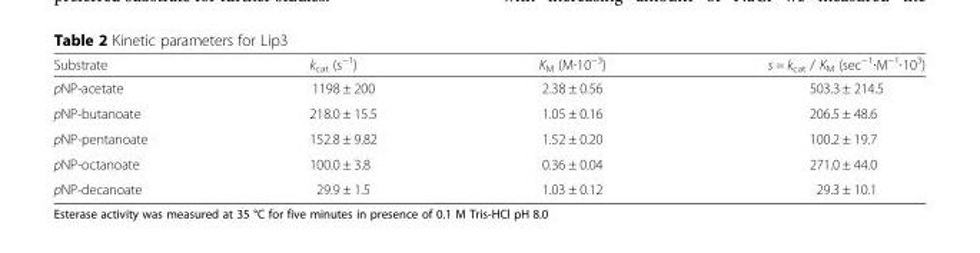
<table><thead><tr><td>Substrate</td><td>k<sub>cat</sub> (s<sup>−1</sup>)</td><td>K<sub>M</sub> (M∙10<sup>−3</sup>)</td><td>s = k<sub>cat</sub> / K<sub>M</sub> (sec<sup>−1</sup>∙M<sup>−1</sup>∙10<sup>3</sup>)</td></tr></thead><tbody><tr><td>pNP-acetate</td><td>1198 ± 200</td><td>2.38 ± 0.56</td><td>503.3 ± 214.5</td></tr><tr><td>pNP-butanoate</td><td>218.0 ± 15.5</td><td>1.05 ± 0.16</td><td>206.5 ± 48.6</td></tr><tr><td>pNP-pentanoate</td><td>152.8 ± 9.82</td><td>1.52 ± 0.20</td><td>100.2 ± 19.7</td></tr><tr><td>pNP-octanoate</td><td>100.0 ± 3.8</td><td>0.36 ± 0.04</td><td>271.0 ± 44.0</td></tr><tr><td>pNP-decanoate</td><td>29.9 ± 1.5</td><td>1.03 ± 0.12</td><td>29.3 ± 10.1</td></tr></tbody></table>